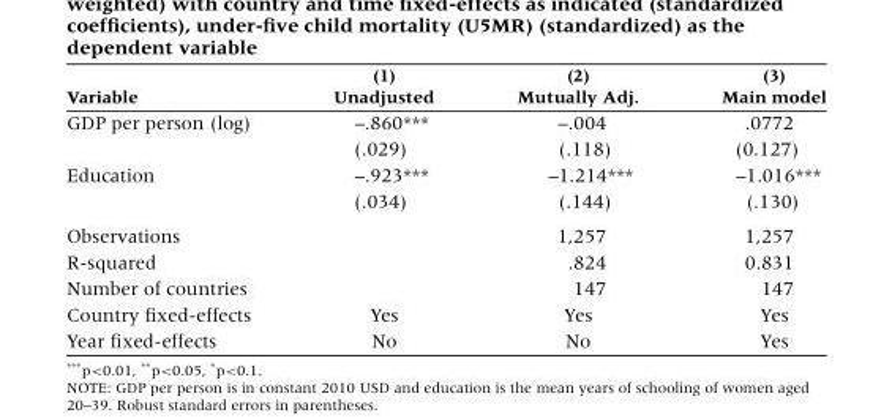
<table><thead><tr><td rowspan="2">Variable</td><td rowspan="2">(1) Unadjusted</td><td rowspan="2">(2) Mutually Adj.</td><td rowspan="2">(3) Main model</td></tr><tr></tr></thead><tbody><tr><td rowspan="2">GDP per person (log)</td><td>–.860***</td><td>–.004</td><td>.0772</td></tr><tr><td>(.029)</td><td>(.118)</td><td>(0.127)</td></tr><tr><td rowspan="2">Education</td><td>–.923***</td><td>–1.214***</td><td>–1.016***</td></tr><tr><td>(.034)</td><td>(.144)</td><td>(.130)</td></tr><tr><td>Observations</td><td></td><td>1,257</td><td>1,257</td></tr><tr><td>R-squared</td><td></td><td>.824</td><td>0.831</td></tr><tr><td>Number of countries</td><td></td><td>147</td><td>147</td></tr><tr><td>Country fixed-effects</td><td>Yes</td><td>Yes</td><td>Yes</td></tr><tr><td>Year fixed-effects</td><td>No</td><td>No</td><td>Yes</td></tr></tbody></table>